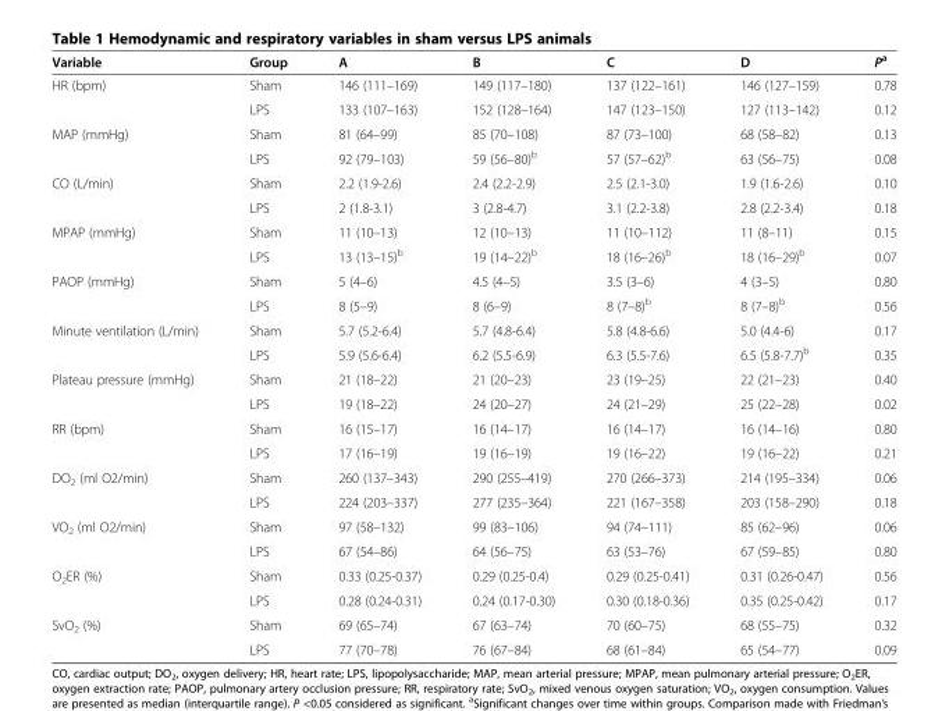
<table><thead><tr><td>Variable</td><td>Group</td><td>A</td><td>B</td><td>C</td><td>D</td><td>P<sup>a</sup></td></tr></thead><tbody><tr><td rowspan="2">HR (bpm)</td><td>Sham</td><td>146 (111–169)</td><td>149 (117–180)</td><td>137 (122–161)</td><td>146 (127–159)</td><td>0.78</td></tr><tr><td>LPS</td><td>133 (107–163)</td><td>152 (128–164)</td><td>147 (123–150)</td><td>127 (113–142)</td><td>0.12</td></tr><tr><td rowspan="2">MAP (mmHg)</td><td>Sham</td><td>81 (64–99)</td><td>85 (70–108)</td><td>87 (73–100)</td><td>68 (58–82)</td><td>0.13</td></tr><tr><td>LPS</td><td>92 (79–103)</td><td>59 (56–80)<sup>b</sup></td><td>57 (57–62)<sup>b</sup></td><td>63 (56–75)</td><td>0.08</td></tr><tr><td rowspan="2">CO (L/min)</td><td>Sham</td><td>2.2 (1.9-2.6)</td><td>2.4 (2.2-2.9)</td><td>2.5 (2.1-3.0)</td><td>1.9 (1.6-2.6)</td><td>0.10</td></tr><tr><td>LPS</td><td>2 (1.8-3.1)</td><td>3 (2.8-4.7)</td><td>3.1 (2.2-3.8)</td><td>2.8 (2.2-3.4)</td><td>0.18</td></tr><tr><td rowspan="2">MPAP (mmHg)</td><td>Sham</td><td>11 (10–13)</td><td>12 (10–13)</td><td>11 (10–112)</td><td>11 (8–11)</td><td>0.15</td></tr><tr><td>LPS</td><td>13 (13–15)<sup>b</sup></td><td>19 (14–22)<sup>b</sup></td><td>18 (16–26)<sup>b</sup></td><td>18 (16–29)<sup>b</sup></td><td>0.07</td></tr><tr><td rowspan="2">PAOP (mmHg)</td><td>Sham</td><td>5 (4–6)</td><td>4.5 (4–5)</td><td>3.5 (3–6)</td><td>4 (3–5)</td><td>0.80</td></tr><tr><td>LPS</td><td>8 (5–9)</td><td>8 (6–9)</td><td>8 (7–8)<sup>b</sup></td><td>8 (7–8)<sup>b</sup></td><td>0.56</td></tr><tr><td rowspan="2">Minute ventilation (L/min)</td><td>Sham</td><td>5.7 (5.2-6.4)</td><td>5.7 (4.8-6.4)</td><td>5.8 (4.8-6.6)</td><td>5.0 (4.4-6)</td><td>0.17</td></tr><tr><td>LPS</td><td>5.9 (5.6-6.4)</td><td>6.2 (5.5-6.9)</td><td>6.3 (5.5-7.6)</td><td>6.5 (5.8-7.7)<sup>b</sup></td><td>0.35</td></tr><tr><td rowspan="2">Plateau pressure (mmHg)</td><td>Sham</td><td>21 (18–22)</td><td>21 (20–23)</td><td>23 (19–25)</td><td>22 (21–23)</td><td>0.40</td></tr><tr><td>LPS</td><td>19 (18–22)</td><td>24 (20–27)</td><td>24 (21–29)</td><td>25 (22–28)</td><td>0.02</td></tr><tr><td rowspan="2">RR (bpm)</td><td>Sham</td><td>16 (15–17)</td><td>16 (14–17)</td><td>16 (14–17)</td><td>16 (14–16)</td><td>0.80</td></tr><tr><td>LPS</td><td>17 (16–19)</td><td>19 (16–19)</td><td>19 (16–22)</td><td>19 (16–22)</td><td>0.21</td></tr><tr><td rowspan="2">DO<sub>2</sub> (ml O2/min)</td><td>Sham</td><td>260 (137–343)</td><td>290 (255–419)</td><td>270 (266–373)</td><td>214 (195–334)</td><td>0.06</td></tr><tr><td>LPS</td><td>224 (203–337)</td><td>277 (235–364)</td><td>221 (167–358)</td><td>203 (158–290)</td><td>0.18</td></tr><tr><td rowspan="2">VO<sub>2</sub> (ml O2/min)</td><td>Sham</td><td>97 (58–132)</td><td>99 (83–106)</td><td>94 (74–111)</td><td>85 (62–96)</td><td>0.06</td></tr><tr><td>LPS</td><td>67 (54–86)</td><td>64 (56–75)</td><td>63 (53–76)</td><td>67 (59–85)</td><td>0.80</td></tr><tr><td rowspan="2">O<sub>2</sub>ER (%)</td><td>Sham</td><td>0.33 (0.25-0.37)</td><td>0.29 (0.25-0.4)</td><td>0.29 (0.25-0.41)</td><td>0.31 (0.26-0.47)</td><td>0.56</td></tr><tr><td>LPS</td><td>0.28 (0.24-0.31)</td><td>0.24 (0.17-0.30)</td><td>0.30 (0.18-0.36)</td><td>0.35 (0.25-0.42)</td><td>0.17</td></tr><tr><td rowspan="2">SvO<sub>2</sub> (%)</td><td>Sham</td><td>69 (65–74)</td><td>67 (63–74)</td><td>70 (60–75)</td><td>68 (55–75)</td><td>0.32</td></tr><tr><td>LPS</td><td>77 (70–78)</td><td>76 (67–84)</td><td>68 (61–84)</td><td>65 (54–77)</td><td>0.09</td></tr></tbody></table>